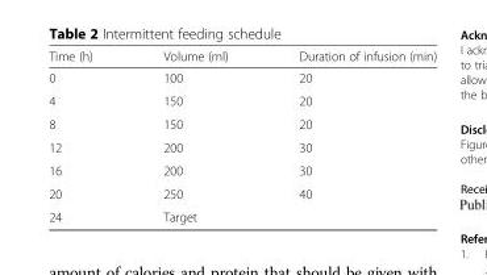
<table><thead><tr><td>Time (h)</td><td>Volume (ml)</td><td>Duration of infusion (min)</td></tr></thead><tbody><tr><td>0</td><td>100</td><td>20</td></tr><tr><td>4</td><td>150</td><td>20</td></tr><tr><td>8</td><td>150</td><td>20</td></tr><tr><td>12</td><td>200</td><td>30</td></tr><tr><td>16</td><td>200</td><td>30</td></tr><tr><td>20</td><td>250</td><td>40</td></tr><tr><td>24</td><td>Target</td><td></td></tr></tbody></table>